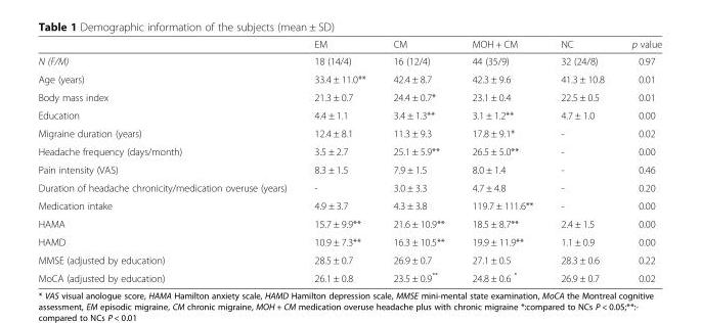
<table><thead><tr><td></td><td>EM</td><td>CM</td><td>MOH + CM</td><td>NC</td><td>p value</td></tr></thead><tbody><tr><td>N (F/M)</td><td>18 (14/4)</td><td>16 (12/4)</td><td>44 (35/9)</td><td>32 (24/8)</td><td>0.97</td></tr><tr><td>Age (years)</td><td>33.4 ± 11.0**</td><td>42.4 ± 8.7</td><td>42.3 ± 9.6</td><td>41.3 ± 10.8</td><td>0.01</td></tr><tr><td>Body mass index</td><td>21.3 ± 0.7</td><td>24.4 ± 0.7*</td><td>23.1 ± 0.4</td><td>22.5 ± 0.5</td><td>0.01</td></tr><tr><td>Education</td><td>4.4 ± 1.1</td><td>3.4 ± 1.3**</td><td>3.1 ± 1.2**</td><td>4.7 ± 1.0</td><td>0.00</td></tr><tr><td>Migraine duration (years)</td><td>12.4 ± 8.1</td><td>11.3 ± 9.3</td><td>17.8 ± 9.1*</td><td>-</td><td>0.02</td></tr><tr><td>Headache frequency (days/month)</td><td>3.5 ± 2.7</td><td>25.1 ± 5.9**</td><td>26.5 ± 5.0**</td><td>-</td><td>0.00</td></tr><tr><td>Pain intensity (VAS)</td><td>8.3 ± 1.5</td><td>7.9 ± 1.5</td><td>8.0 ± 1.4</td><td>-</td><td>0.46</td></tr><tr><td>Duration of headache chronicity/medication overuse (years)</td><td>-</td><td>3.0 ± 3.3</td><td>4.7 ± 4.8</td><td>-</td><td>0.20</td></tr><tr><td>Medication intake</td><td>4.9 ± 3.7</td><td>4.3 ± 3.8</td><td>119.7 ± 111.6**</td><td>-</td><td>0.00</td></tr><tr><td>HAMA</td><td>15.7 ± 9.9**</td><td>21.6 ± 10.9**</td><td>18.5 ± 8.7**</td><td>2.4 ± 1.5</td><td>0.00</td></tr><tr><td>HAMD</td><td>10.9 ± 7.3**</td><td>16.3 ± 10.5**</td><td>19.9 ± 11.9**</td><td>1.1 ± 0.9</td><td>0.00</td></tr><tr><td>MMSE (adjusted by education)</td><td>28.5 ± 0.7</td><td>26.9 ± 0.7</td><td>27.1 ± 0.5</td><td>28.3 ± 0.6</td><td>0.22</td></tr><tr><td>MoCA (adjusted by education)</td><td>26.1 ± 0.8</td><td>23.5 ± 0.9**</td><td>24.8 ± 0.6 *</td><td>26.9 ± 0.7</td><td>0.02</td></tr></tbody></table>